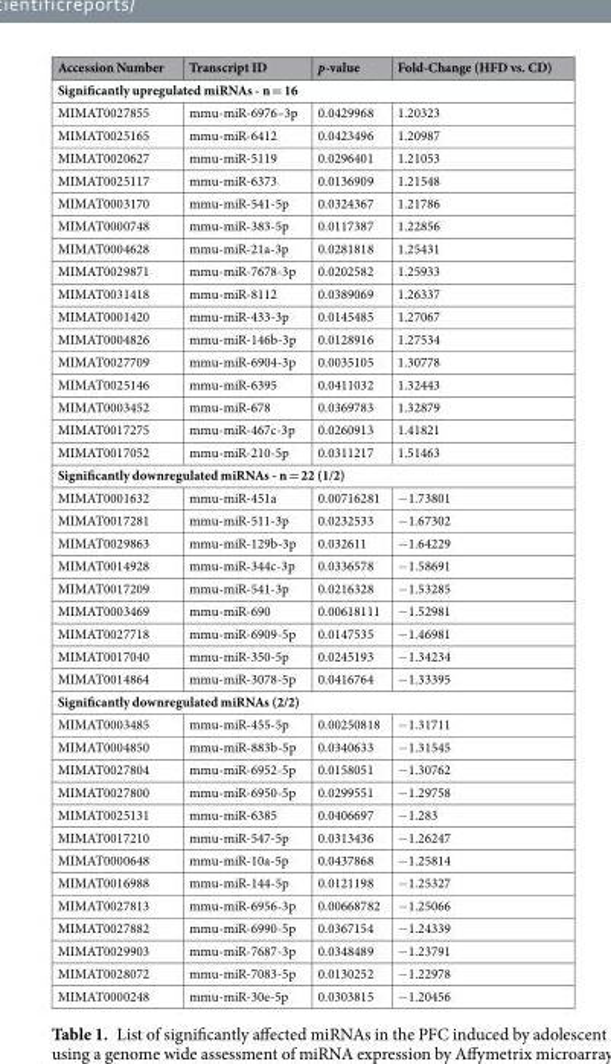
<table><thead><tr><td>Accession Number</td><td>Transcript ID</td><td>p-value</td><td>Fold-Change (HFD vs. CD)</td></tr></thead><tbody><tr><td colspan="4">Significantly upregulated miRNAs - n = 16</td></tr><tr><td>MIMAT0027855</td><td>mmu-miR-6976–3p</td><td>0.0429968</td><td>1.20323</td></tr><tr><td>MIMAT0025165</td><td>mmu-miR-6412</td><td>0.0423496</td><td>1.20987</td></tr><tr><td>MIMAT0020627</td><td>mmu-miR-5119</td><td>0.0296401</td><td>1.21053</td></tr><tr><td>MIMAT0025117</td><td>mmu-miR-6373</td><td>0.0136909</td><td>1.21548</td></tr><tr><td>MIMAT0003170</td><td>mmu-miR-541-5p</td><td>0.0324367</td><td>1.21786</td></tr><tr><td>MIMAT0000748</td><td>mmu-miR-383-5p</td><td>0.0117387</td><td>1.22856</td></tr><tr><td>MIMAT0004628</td><td>mmu-miR-21a-3p</td><td>0.0281818</td><td>1.25431</td></tr><tr><td>MIMAT0029871</td><td>mmu-miR-7678-3p</td><td>0.0202582</td><td>1.25933</td></tr><tr><td>MIMAT0031418</td><td>mmu-miR-8112</td><td>0.0389069</td><td>1.26337</td></tr><tr><td>MIMAT0001420</td><td>mmu-miR-433-3p</td><td>0.0145485</td><td>1.27067</td></tr><tr><td>MIMAT0004826</td><td>mmu-miR-146b-3p</td><td>0.0128916</td><td>1.27534</td></tr><tr><td>MIMAT0027709</td><td>mmu-miR-6904-3p</td><td>0.0035105</td><td>1.30778</td></tr><tr><td>MIMAT0025146</td><td>mmu-miR-6395</td><td>0.0411032</td><td>1.32443</td></tr><tr><td>MIMAT0003452</td><td>mmu-miR-678</td><td>0.0369783</td><td>1.32879</td></tr><tr><td>MIMAT0017275</td><td>mmu-miR-467c-3p</td><td>0.0260913</td><td>1.41821</td></tr><tr><td>MIMAT0017052</td><td>mmu-miR-210-5p</td><td>0.0311217</td><td>1.51463</td></tr><tr><td colspan="4">Significantly downregulated miRNAs - n = 22 (1/2)</td></tr><tr><td>MIMAT0001632</td><td>mmu-miR-451a</td><td>0.00716281</td><td>−1.73801</td></tr><tr><td>MIMAT0017281</td><td>mmu-miR-511-3p</td><td>0.0232533</td><td>−1.67302</td></tr><tr><td>MIMAT0029863</td><td>mmu-miR-129b-3p</td><td>0.032611</td><td>−1.64229</td></tr><tr><td>MIMAT0014928</td><td>mmu-miR-344c-3p</td><td>0.0336578</td><td>−1.58691</td></tr><tr><td>MIMAT0017209</td><td>mmu-miR-541-3p</td><td>0.0216328</td><td>−1.53285</td></tr><tr><td>MIMAT0003469</td><td>mmu-miR-690</td><td>0.00618111</td><td>−1.52981</td></tr><tr><td>MIMAT0027718</td><td>mmu-miR-6909-5p</td><td>0.0147535</td><td>−1.46981</td></tr><tr><td>MIMAT0017040</td><td>mmu-miR-350-5p</td><td>0.0245193</td><td>−1.34234</td></tr><tr><td>MIMAT0014864</td><td>mmu-miR-3078-5p</td><td>0.0416764</td><td>−1.33395</td></tr><tr><td colspan="4">Significantly downregulated miRNAs (2/2)</td></tr><tr><td>MIMAT0003485</td><td>mmu-miR-455-5p</td><td>0.00250818</td><td>−1.31711</td></tr><tr><td>MIMAT0004850</td><td>mmu-miR-883b-5p</td><td>0.0340633</td><td>−1.31545</td></tr><tr><td>MIMAT0027804</td><td>mmu-miR-6952-5p</td><td>0.0158051</td><td>−1.30762</td></tr><tr><td>MIMAT0027800</td><td>mmu-miR-6950-5p</td><td>0.0299551</td><td>−1.29758</td></tr><tr><td>MIMAT0025131</td><td>mmu-miR-6385</td><td>0.0406697</td><td>−1.283</td></tr><tr><td>MIMAT0017210</td><td>mmu-miR-547-5p</td><td>0.0313436</td><td>−1.26247</td></tr><tr><td>MIMAT0000648</td><td>mmu-miR-10a-5p</td><td>0.0437868</td><td>−1.25814</td></tr><tr><td>MIMAT0016988</td><td>mmu-miR-144-5p</td><td>0.0121198</td><td>−1.25327</td></tr><tr><td>MIMAT0027813</td><td>mmu-miR-6956-3p</td><td>0.00668782</td><td>−1.25066</td></tr><tr><td>MIMAT0027882</td><td>mmu-miR-6990-5p</td><td>0.0367154</td><td>−1.24339</td></tr><tr><td>MIMAT0029903</td><td>mmu-miR-7687-3p</td><td>0.0348489</td><td>−1.23791</td></tr><tr><td>MIMAT0028072</td><td>mmu-miR-7083-5p</td><td>0.0130252</td><td>−1.22978</td></tr><tr><td>MIMAT0000248</td><td>mmu-miR-30e-5p</td><td>0.0303815</td><td>−1.20456</td></tr></tbody></table>